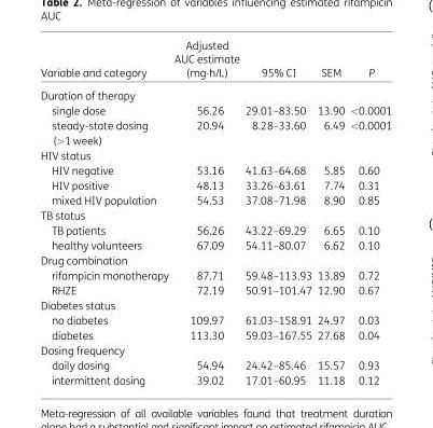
<table><thead><tr><td>Variable and category</td><td>Adjusted AUC estimate (mg·h/L)</td><td>95% CI</td><td>SEM</td><td>P</td></tr></thead><tbody><tr><td colspan="5">Duration of therapy</td></tr><tr><td>single dose</td><td>56.26</td><td>29.01–83.50</td><td>13.90</td><td>&lt;0.0001</td></tr><tr><td>steady-state dosing (&gt;1 week)</td><td>20.94</td><td>8.28–33.60</td><td>6.49</td><td>&lt;0.0001</td></tr><tr><td colspan="5">HIV status</td></tr><tr><td>HIV negative</td><td>53.16</td><td>41.63–64.68</td><td>5.85</td><td>0.60</td></tr><tr><td>HIV positive</td><td>48.13</td><td>33.26–63.61</td><td>7.74</td><td>0.31</td></tr><tr><td>mixed HIV population</td><td>54.53</td><td>37.08–71.98</td><td>8.90</td><td>0.85</td></tr><tr><td colspan="5">TB status</td></tr><tr><td>TB patients</td><td>56.26</td><td>43.22–69.29</td><td>6.65</td><td>0.10</td></tr><tr><td>healthy volunteers</td><td>67.09</td><td>54.11–80.07</td><td>6.62</td><td>0.10</td></tr><tr><td colspan="5">Drug combination</td></tr><tr><td>rifampicin monotherapy</td><td>87.71</td><td>59.48–113.93</td><td>13.89</td><td>0.72</td></tr><tr><td>RHZE</td><td>72.19</td><td>50.91–101.47</td><td>12.90</td><td>0.67</td></tr><tr><td colspan="5">Diabetes status</td></tr><tr><td>no diabetes</td><td>109.97</td><td>61.03–158.91</td><td>24.97</td><td>0.03</td></tr><tr><td>diabetes</td><td>113.30</td><td>59.03–167.55</td><td>27.68</td><td>0.04</td></tr><tr><td colspan="5">Dosing frequency</td></tr><tr><td>daily dosing</td><td>54.94</td><td>24.42–85.46</td><td>15.57</td><td>0.93</td></tr><tr><td>intermittent dosing</td><td>39.02</td><td>17.01–60.95</td><td>11.18</td><td>0.12</td></tr></tbody></table>